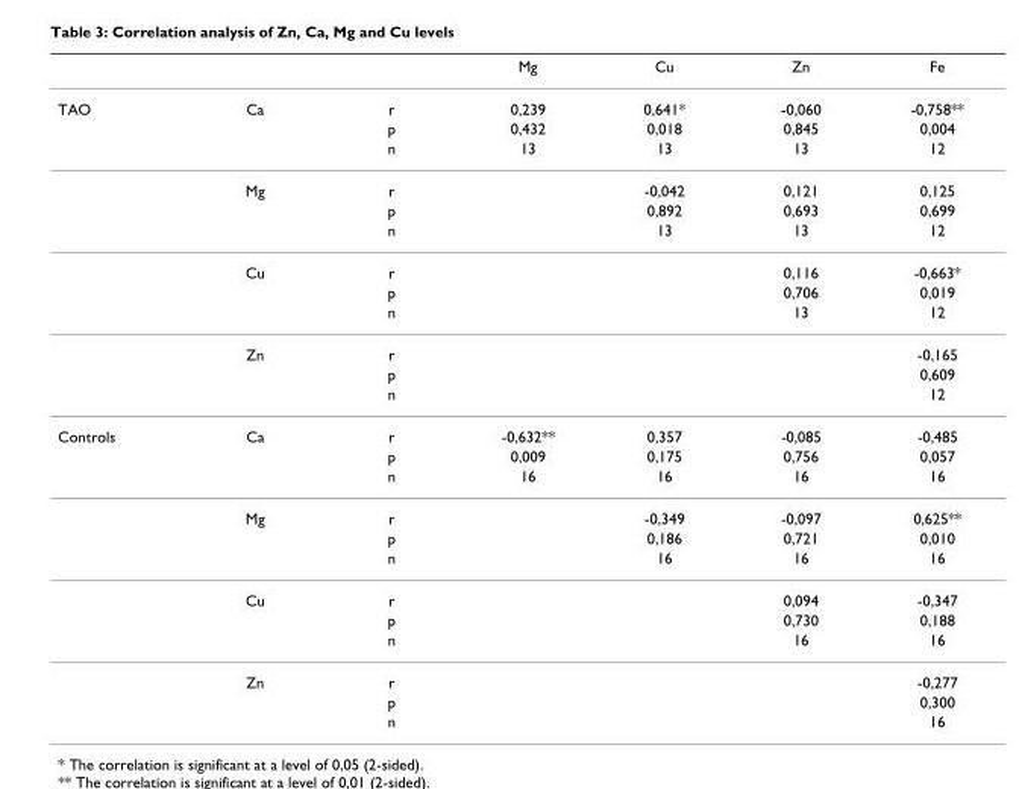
<table><thead><tr><td></td><td></td><td></td><td>Mg</td><td>Cu</td><td>Zn</td><td>Fe</td></tr></thead><tbody><tr><td rowspan="12">TAO</td><td>Ca</td><td>r</td><td>0,239</td><td>0,641*</td><td>-0,060</td><td>-0,758**</td></tr><tr><td></td><td>p</td><td>0,432</td><td>0,018</td><td>0,845</td><td>0,004</td></tr><tr><td></td><td>n</td><td>13</td><td>13</td><td>13</td><td>12</td></tr><tr><td>Mg</td><td>r</td><td></td><td>-0,042</td><td>0,121</td><td>0,125</td></tr><tr><td></td><td>p</td><td></td><td>0,892</td><td>0,693</td><td>0,699</td></tr><tr><td></td><td>n</td><td></td><td>13</td><td>13</td><td>12</td></tr><tr><td>Cu</td><td>r</td><td></td><td></td><td>0,116</td><td>-0,663*</td></tr><tr><td></td><td>p</td><td></td><td></td><td>0,706</td><td>0,019</td></tr><tr><td></td><td>n</td><td></td><td></td><td>13</td><td>12</td></tr><tr><td>Zn</td><td>r</td><td></td><td></td><td></td><td>-0,165</td></tr><tr><td></td><td>p</td><td></td><td></td><td></td><td>0,609</td></tr><tr><td></td><td>n</td><td></td><td></td><td></td><td>12</td></tr><tr><td rowspan="12">Controls</td><td>Ca</td><td>r</td><td>-0,632**</td><td>0,357</td><td>-0,085</td><td>-0,485</td></tr><tr><td></td><td>p</td><td>0,009</td><td>0,175</td><td>0,756</td><td>0,057</td></tr><tr><td></td><td>n</td><td>16</td><td>16</td><td>16</td><td>16</td></tr><tr><td>Mg</td><td>r</td><td></td><td>-0,349</td><td>-0,097</td><td>0,625**</td></tr><tr><td></td><td>p</td><td></td><td>0,186</td><td>0,721</td><td>0,010</td></tr><tr><td></td><td>n</td><td></td><td>16</td><td>16</td><td>16</td></tr><tr><td>Cu</td><td>r</td><td></td><td></td><td>0,094</td><td>-0,347</td></tr><tr><td></td><td>p</td><td></td><td></td><td>0,730</td><td>0,188</td></tr><tr><td></td><td>n</td><td></td><td></td><td>16</td><td>16</td></tr><tr><td>Zn</td><td>r</td><td></td><td></td><td></td><td>-0,277</td></tr><tr><td></td><td>p</td><td></td><td></td><td></td><td>0,300</td></tr><tr><td></td><td>n</td><td></td><td></td><td></td><td>16</td></tr></tbody></table>